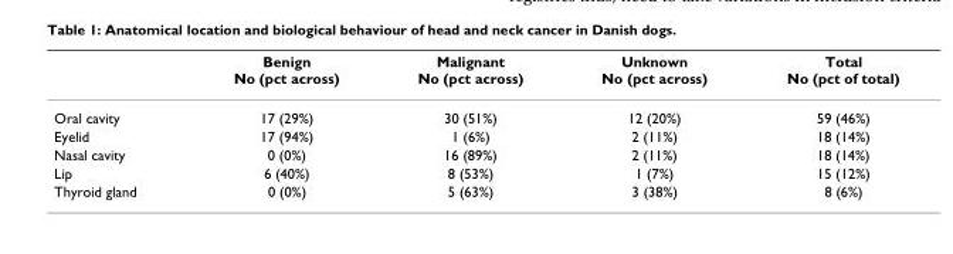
<table><thead><tr><td></td><td>Benign No (pct across)</td><td>Malignant No (pct across)</td><td>Unknown No (pct across)</td><td>Total No (pct of total)</td></tr></thead><tbody><tr><td>Oral cavity</td><td>17 (29%)</td><td>30 (51%)</td><td>12 (20%)</td><td>59 (46%)</td></tr><tr><td>Eyelid</td><td>17 (94%)</td><td>1 (6%)</td><td>2 (11%)</td><td>18 (14%)</td></tr><tr><td>Nasal cavity</td><td>0 (0%)</td><td>16 (89%)</td><td>2 (11%)</td><td>18 (14%)</td></tr><tr><td>Lip</td><td>6 (40%)</td><td>8 (53%)</td><td>1 (7%)</td><td>15 (12%)</td></tr><tr><td>Thyroid gland</td><td>0 (0%)</td><td>5 (63%)</td><td>3 (38%)</td><td>8 (6%)</td></tr></tbody></table>